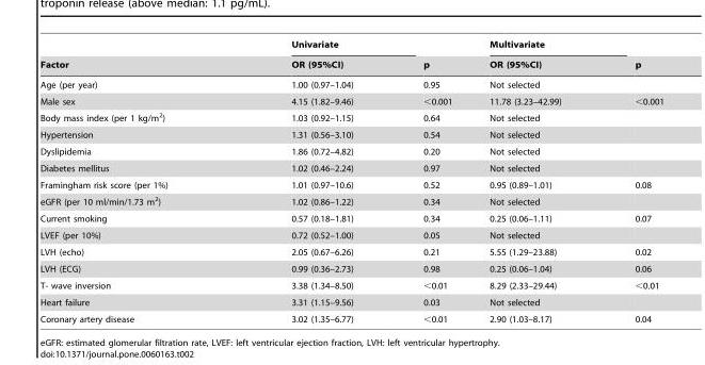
<table><thead><tr><td rowspan="2">Factor</td><td rowspan="2">Univariate OR (95%CI)</td><td rowspan="2">p</td><td rowspan="2">Multivariate OR (95%CI)</td><td rowspan="2">p</td></tr><tr></tr></thead><tbody><tr><td>Age (per year)</td><td>1.00 (0.97–1.04)</td><td>0.95</td><td>Not selected</td><td></td></tr><tr><td>Male sex</td><td>4.15 (1.82–9.46)</td><td>&lt;0.001</td><td>11.78 (3.23–42.99)</td><td>&lt;0.001</td></tr><tr><td>Body mass index (per 1 kg/m<sup>2</sup>)</td><td>1.03 (0.92–1.15)</td><td>0.64</td><td>Not selected</td><td></td></tr><tr><td>Hypertension</td><td>1.31 (0.56–3.10)</td><td>0.54</td><td>Not selected</td><td></td></tr><tr><td>Dyslipidemia</td><td>1.86 (0.72–4.82)</td><td>0.20</td><td>Not selected</td><td></td></tr><tr><td>Diabetes mellitus</td><td>1.02 (0.46–2.24)</td><td>0.97</td><td>Not selected</td><td></td></tr><tr><td>Framingham risk score (per 1%)</td><td>1.01 (0.97–10.6)</td><td>0.52</td><td>0.95 (0.89–1.01)</td><td>0.08</td></tr><tr><td>eGFR (per 10 ml/min/1.73 m<sup>2</sup>)</td><td>1.02 (0.86–1.22)</td><td>0.34</td><td>Not selected</td><td></td></tr><tr><td>Current smoking</td><td>0.57 (0.18–1.81)</td><td>0.34</td><td>0.25 (0.06–1.11)</td><td>0.07</td></tr><tr><td>LVEF (per 10%)</td><td>0.72 (0.52–1.00)</td><td>0.05</td><td>Not selected</td><td></td></tr><tr><td>LVH (echo)</td><td>2.05 (0.67–6.26)</td><td>0.21</td><td>5.55 (1.29–23.88)</td><td>0.02</td></tr><tr><td>LVH (ECG)</td><td>0.99 (0.36–2.73)</td><td>0.98</td><td>0.25 (0.06–1.04)</td><td>0.06</td></tr><tr><td>T- wave inversion</td><td>3.38 (1.34–8.50)</td><td>&lt;0.01</td><td>8.29 (2.33–29.44)</td><td>&lt;0.01</td></tr><tr><td>Heart failure</td><td>3.31 (1.15–9.56)</td><td>0.03</td><td>Not selected</td><td></td></tr><tr><td>Coronary artery disease</td><td>3.02 (1.35–6.77)</td><td>&lt;0.01</td><td>2.90 (1.03–8.17)</td><td>0.04</td></tr></tbody></table>